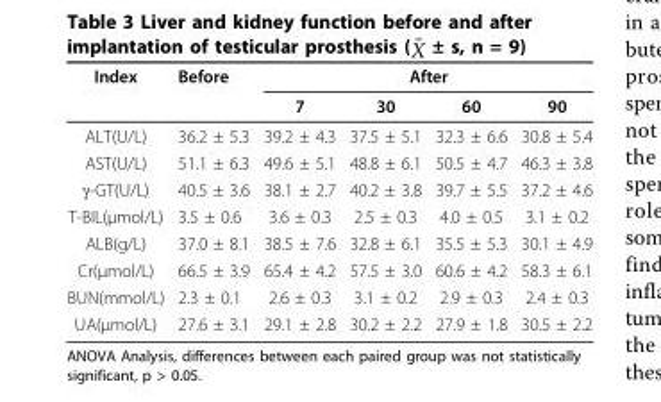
<table><tbody><tr><td rowspan="2">Index</td><td>Before</td><td colspan="4">After</td></tr><tr><td></td><td>7</td><td>30</td><td>60</td><td>90</td></tr><tr><td>ALT(U/L)</td><td>36.2 ± 5.3</td><td>39.2 ± 4.3</td><td>37.5 ± 5.1</td><td>32.3 ± 6.6</td><td>30.8 ± 5.4</td></tr><tr><td>AST(U/L)</td><td>51.1 ± 6.3</td><td>49.6 ± 5.1</td><td>48.8 ± 6.1</td><td>50.5 ± 4.7</td><td>46.3 ± 3.8</td></tr><tr><td>γ-GT(U/L)</td><td>40.5 ± 3.6</td><td>38.1 ± 2.7</td><td>40.2 ± 3.8</td><td>39.7 ± 5.5</td><td>37.2 ± 4.6</td></tr><tr><td>T-BIL(μmol/L)</td><td>3.5 ± 0.6</td><td>3.6 ± 0.3</td><td>2.5 ± 0.3</td><td>4.0 ± 0.5</td><td>3.1 ± 0.2</td></tr><tr><td>ALB(g/L)</td><td>37.0 ± 8.1</td><td>38.5 ± 7.6</td><td>32.8 ± 6.1</td><td>35.5 ± 5.3</td><td>30.1 ± 4.9</td></tr><tr><td>Cr(μmol/L)</td><td>66.5 ± 3.9</td><td>65.4 ± 4.2</td><td>57.5 ± 3.0</td><td>60.6 ± 4.2</td><td>58.3 ± 6.1</td></tr><tr><td>BUN(mmol/L)</td><td>2.3 ± 0.1</td><td>2.6 ± 0.3</td><td>3.1 ± 0.2</td><td>2.9 ± 0.3</td><td>2.4 ± 0.3</td></tr><tr><td>UA(μmol/L)</td><td>27.6 ± 3.1</td><td>29.1 ± 2.8</td><td>30.2 ± 2.2</td><td>27.9 ± 1.8</td><td>30.5 ± 2.2</td></tr></tbody></table>